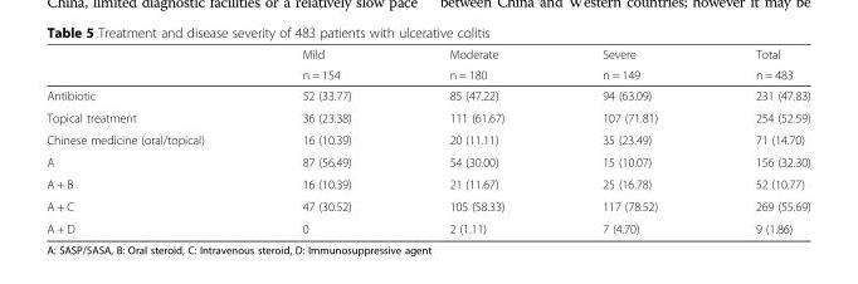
<table><thead><tr><td rowspan="2"></td><td rowspan="2">Mild n = 154</td><td rowspan="2">Moderate n = 180</td><td rowspan="2">Severe n = 149</td><td rowspan="2">Total n = 483</td></tr><tr></tr></thead><tbody><tr><td>Antibiotic</td><td>52 (33.77)</td><td>85 (47.22)</td><td>94 (63.09)</td><td>231 (47.83)</td></tr><tr><td>Topical treatment</td><td>36 (23.38)</td><td>111 (61.67)</td><td>107 (71.81)</td><td>254 (52.59)</td></tr><tr><td>Chinese medicine (oral/topical)</td><td>16 (10.39)</td><td>20 (11.11)</td><td>35 (23.49)</td><td>71 (14.70)</td></tr><tr><td>A</td><td>87 (56.49)</td><td>54 (30.00)</td><td>15 (10.07)</td><td>156 (32.30)</td></tr><tr><td>A + B</td><td>16 (10.39)</td><td>21 (11.67)</td><td>25 (16.78)</td><td>52 (10.77)</td></tr><tr><td>A + C</td><td>47 (30.52)</td><td>105 (58.33)</td><td>117 (78.52)</td><td>269 (55.69)</td></tr><tr><td>A + D</td><td>0</td><td>2 (1.11)</td><td>7 (4.70)</td><td>9 (1.86)</td></tr></tbody></table>